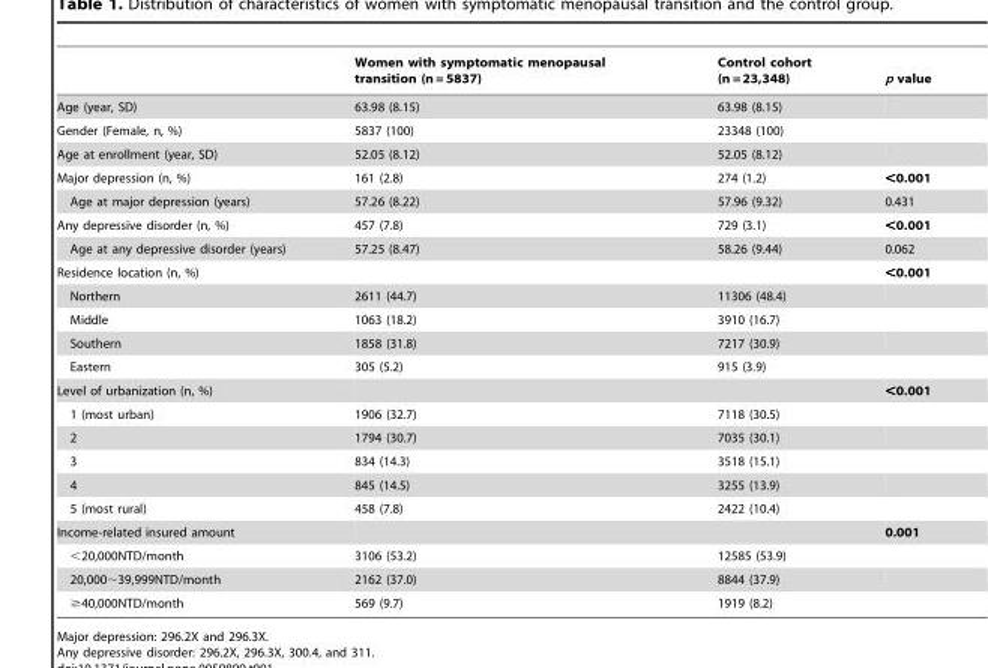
<table><thead><tr><td></td><td>Women with symptomatic menopausal transition (n = 5837)</td><td>Control cohort (n = 23,348)</td><td>p value</td></tr></thead><tbody><tr><td>Age (year, SD)</td><td>63.98 (8.15)</td><td>63.98 (8.15)</td><td></td></tr><tr><td>Gender (Female, n, %)</td><td>5837 (100)</td><td>23348 (100)</td><td></td></tr><tr><td>Age at enrollment (year, SD)</td><td>52.05 (8.12)</td><td>52.05 (8.12)</td><td></td></tr><tr><td>Major depression (n, %)</td><td>161 (2.8)</td><td>274 (1.2)</td><td>&lt;0.001</td></tr><tr><td>Age at major depression (years)</td><td>57.26 (8.22)</td><td>57.96 (9.32)</td><td>0.431</td></tr><tr><td>Any depressive disorder (n, %)</td><td>457 (7.8)</td><td>729 (3.1)</td><td>&lt;0.001</td></tr><tr><td>Age at any depressive disorder (years)</td><td>57.25 (8.47)</td><td>58.26 (9.44)</td><td>0.062</td></tr><tr><td>Residence location (n, %)</td><td></td><td></td><td>&lt;0.001</td></tr><tr><td>Northern</td><td>2611 (44.7)</td><td>11306 (48.4)</td><td></td></tr><tr><td>Middle</td><td>1063 (18.2)</td><td>3910 (16.7)</td><td></td></tr><tr><td>Southern</td><td>1858 (31.8)</td><td>7217 (30.9)</td><td></td></tr><tr><td>Eastern</td><td>305 (5.2)</td><td>915 (3.9)</td><td></td></tr><tr><td>Level of urbanization (n, %)</td><td></td><td></td><td>&lt;0.001</td></tr><tr><td>1 (most urban)</td><td>1906 (32.7)</td><td>7118 (30.5)</td><td></td></tr><tr><td>2</td><td>1794 (30.7)</td><td>7035 (30.1)</td><td></td></tr><tr><td>3</td><td>834 (14.3)</td><td>3518 (15.1)</td><td></td></tr><tr><td>4</td><td>845 (14.5)</td><td>3255 (13.9)</td><td></td></tr><tr><td>5 (most rural)</td><td>458 (7.8)</td><td>2422 (10.4)</td><td></td></tr><tr><td>Income-related insured amount</td><td></td><td></td><td>0.001</td></tr><tr><td>&lt;20,000NTD/month</td><td>3106 (53.2)</td><td>12585 (53.9)</td><td></td></tr><tr><td>20,000∼39,999NTD/month</td><td>2162 (37.0)</td><td>8844 (37.9)</td><td></td></tr><tr><td>≥40,000NTD/month</td><td>569 (9.7)</td><td>1919 (8.2)</td><td></td></tr></tbody></table>